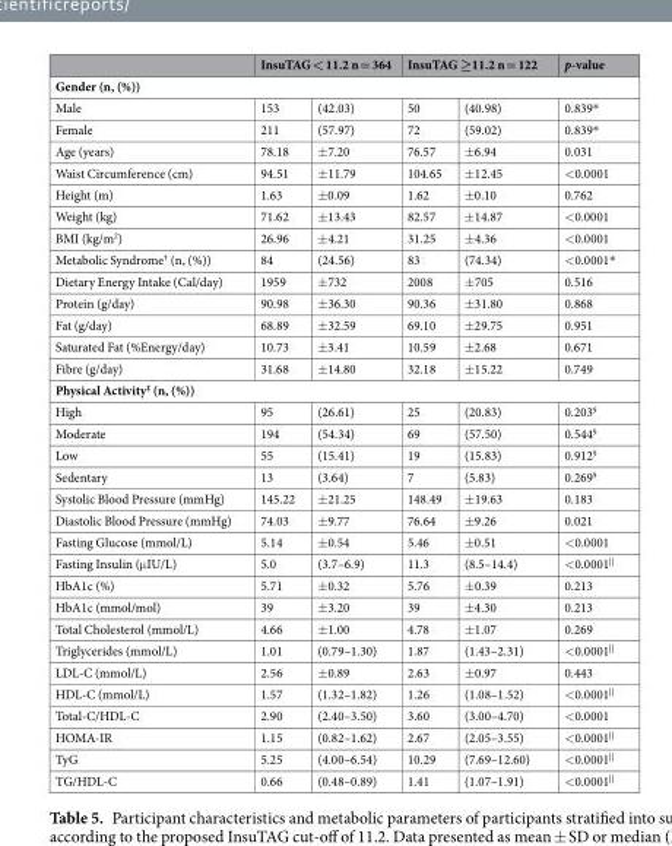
<table><thead><tr><td></td><td colspan="2">InsuTAG &lt; 11.2 n = 364</td><td colspan="2">InsuTAG ≥11.2 n = 122</td><td>p-value</td></tr><tr><td colspan="6">Gender (n, (%))</td></tr><tr><td>Male</td><td>153</td><td>(42.03)</td><td>50</td><td>(40.98)</td><td>0.839*</td></tr></thead><tbody><tr><td>Female</td><td>211</td><td>(57.97)</td><td>72</td><td>(59.02)</td><td>0.839*</td></tr><tr><td>Age (years)</td><td>78.18</td><td>±7.20</td><td>76.57</td><td>±6.94</td><td>0.031</td></tr><tr><td>Waist Circumference (cm)</td><td>94.51</td><td>±11.79</td><td>104.65</td><td>±12.45</td><td>&lt;0.0001</td></tr><tr><td>Height (m)</td><td>1.63</td><td>±0.09</td><td>1.62</td><td>±0.10</td><td>0.762</td></tr><tr><td>Weight (kg)</td><td>71.62</td><td>±13.43</td><td>82.57</td><td>±14.87</td><td>&lt;0.0001</td></tr><tr><td>BMI (kg/m<sup>2</sup>)</td><td>26.96</td><td>±4.21</td><td>31.25</td><td>±4.36</td><td>&lt;0.0001</td></tr><tr><td>Metabolic Syndrome<sup>†</sup> (n, (%))</td><td>84</td><td>(24.56)</td><td>83</td><td>(74.34)</td><td>&lt;0.0001*</td></tr><tr><td>Dietary Energy Intake (Cal/day)</td><td>1959</td><td>±732</td><td>2008</td><td>±705</td><td>0.516</td></tr><tr><td>Protein (g/day)</td><td>90.98</td><td>±36.30</td><td>90.36</td><td>±31.80</td><td>0.868</td></tr><tr><td>Fat (g/day)</td><td>68.89</td><td>±32.59</td><td>69.10</td><td>±29.75</td><td>0.951</td></tr><tr><td>Saturated Fat (%Energy/day)</td><td>10.73</td><td>±3.41</td><td>10.59</td><td>±2.68</td><td>0.671</td></tr><tr><td>Fibre (g/day)</td><td>31.68</td><td>±14.80</td><td>32.18</td><td>±15.22</td><td>0.749</td></tr><tr><td colspan="6">Physical Activity<sup>‡</sup> (n, (%))</td></tr><tr><td>High</td><td>95</td><td>(26.61)</td><td>25</td><td>(20.83)</td><td>0.203<sup>§</sup></td></tr><tr><td>Moderate</td><td>194</td><td>(54.34)</td><td>69</td><td>(57.50)</td><td>0.544<sup>§</sup></td></tr><tr><td>Low</td><td>55</td><td>(15.41)</td><td>19</td><td>(15.83)</td><td>0.912<sup>§</sup></td></tr><tr><td>Sedentary</td><td>13</td><td>(3.64)</td><td>7</td><td>(5.83)</td><td>0.269<sup>§</sup></td></tr><tr><td>Systolic Blood Pressure (mmHg)</td><td>145.22</td><td>±21.25</td><td>148.49</td><td>±19.63</td><td>0.183</td></tr><tr><td>Diastolic Blood Pressure (mmHg)</td><td>74.03</td><td>±9.77</td><td>76.64</td><td>±9.26</td><td>0.021</td></tr><tr><td>Fasting Glucose (mmol/L)</td><td>5.14</td><td>±0.54</td><td>5.46</td><td>±0.51</td><td>&lt;0.0001</td></tr><tr><td>Fasting Insulin (μIU/L)</td><td>5.0</td><td>(3.7–6.9)</td><td>11.3</td><td>(8.5–14.4)</td><td>&lt;0.0001<sup>||</sup></td></tr><tr><td>HbA1c (%)</td><td>5.71</td><td>±0.32</td><td>5.76</td><td>±0.39</td><td>0.213</td></tr><tr><td>HbA1c (mmol/mol)</td><td>39</td><td>±3.20</td><td>39</td><td>±4.30</td><td>0.213</td></tr><tr><td>Total Cholesterol (mmol/L)</td><td>4.66</td><td>±1.00</td><td>4.78</td><td>±1.07</td><td>0.269</td></tr><tr><td>Triglycerides (mmol/L)</td><td>1.01</td><td>(0.79–1.30)</td><td>1.87</td><td>(1.43–2.31)</td><td>&lt;0.0001<sup>||</sup></td></tr><tr><td>LDL-C (mmol/L)</td><td>2.56</td><td>±0.89</td><td>2.63</td><td>±0.97</td><td>0.443</td></tr><tr><td>HDL-C (mmol/L)</td><td>1.57</td><td>(1.32–1.82)</td><td>1.26</td><td>(1.08–1.52)</td><td>&lt;0.0001<sup>||</sup></td></tr><tr><td>Total-C/HDL-C</td><td>2.90</td><td>(2.40–3.50)</td><td>3.60</td><td>(3.00–4.70)</td><td>&lt;0.0001</td></tr><tr><td>HOMA-IR</td><td>1.15</td><td>(0.82–1.62)</td><td>2.67</td><td>(2.05–3.55)</td><td>&lt;0.0001<sup>||</sup></td></tr><tr><td>TyG</td><td>5.25</td><td>(4.00–6.54)</td><td>10.29</td><td>(7.69–12.60)</td><td>&lt;0.0001<sup>||</sup></td></tr><tr><td>TG/HDL-C</td><td>0.66</td><td>(0.48–0.89)</td><td>1.41</td><td>(1.07–1.91)</td><td>&lt;0.0001<sup>||</sup></td></tr></tbody></table>